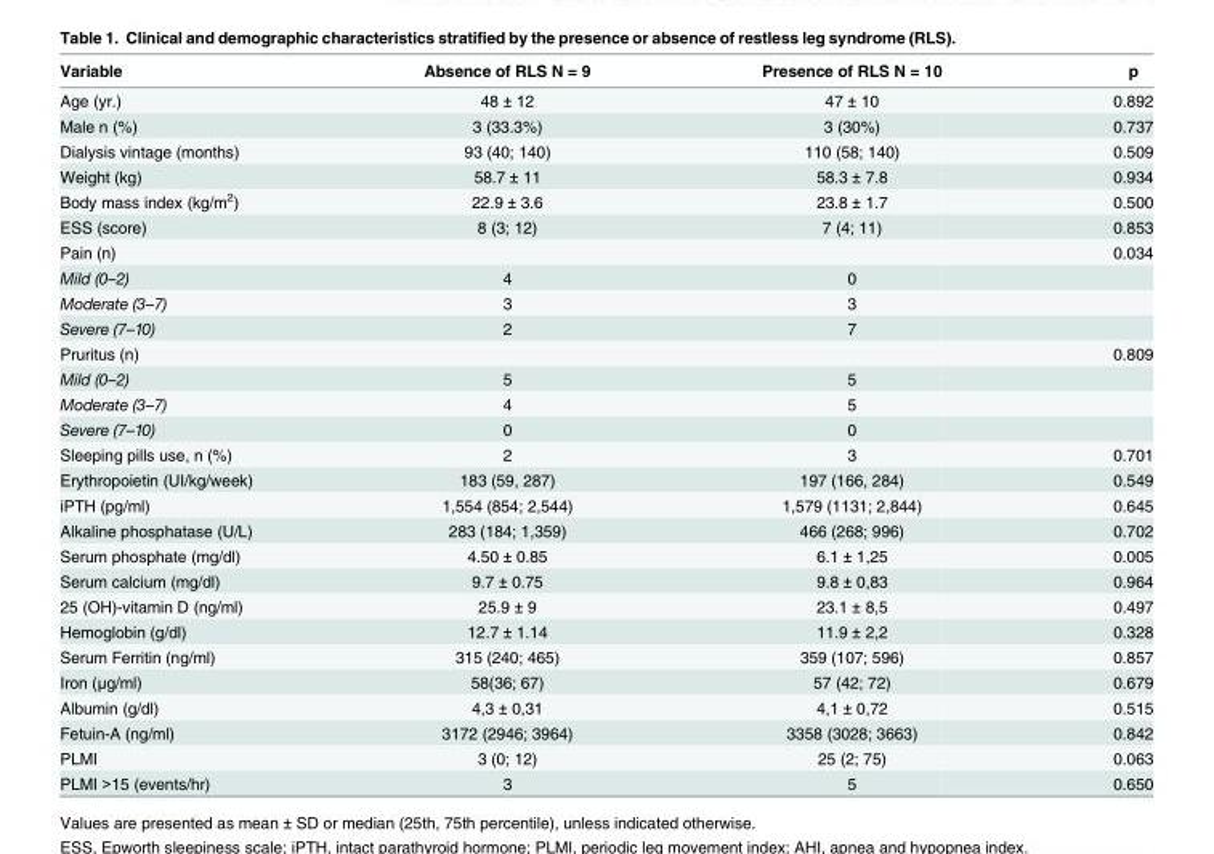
<table><thead><tr><td>Variable</td><td>Absence of RLS N = 9</td><td>Presence of RLS N = 10</td><td>p</td></tr></thead><tbody><tr><td>Age (yr.)</td><td>48 ± 12</td><td>47 ± 10</td><td>0.892</td></tr><tr><td>Male n (%)</td><td>3 (33.3%)</td><td>3 (30%)</td><td>0.737</td></tr><tr><td>Dialysis vintage (months)</td><td>93 (40; 140)</td><td>110 (58; 140)</td><td>0.509</td></tr><tr><td>Weight (kg)</td><td>58.7 ± 11</td><td>58.3 ± 7.8</td><td>0.934</td></tr><tr><td>Body mass index (kg/m<sup>2</sup>)</td><td>22.9 ± 3.6</td><td>23.8 ± 1.7</td><td>0.500</td></tr><tr><td>ESS (score)</td><td>8 (3; 12)</td><td>7 (4; 11)</td><td>0.853</td></tr><tr><td>Pain (n)</td><td></td><td></td><td>0.034</td></tr><tr><td>Mild (0–2)</td><td>4</td><td>0</td><td></td></tr><tr><td>Moderate (3–7)</td><td>3</td><td>3</td><td></td></tr><tr><td>Severe (7–10)</td><td>2</td><td>7</td><td></td></tr><tr><td>Pruritus (n)</td><td></td><td></td><td>0.809</td></tr><tr><td>Mild (0–2)</td><td>5</td><td>5</td><td></td></tr><tr><td>Moderate (3–7)</td><td>4</td><td>5</td><td></td></tr><tr><td>Severe (7–10)</td><td>0</td><td>0</td><td></td></tr><tr><td>Sleeping pills use, n (%)</td><td>2</td><td>3</td><td>0.701</td></tr><tr><td>Erythropoietin (UI/kg/week)</td><td>183 (59, 287)</td><td>197 (166, 284)</td><td>0.549</td></tr><tr><td>iPTH (pg/ml)</td><td>1,554 (854; 2,544)</td><td>1,579 (1131; 2,844)</td><td>0.645</td></tr><tr><td>Alkaline phosphatase (U/L)</td><td>283 (184; 1,359)</td><td>466 (268; 996)</td><td>0.702</td></tr><tr><td>Serum phosphate (mg/dl)</td><td>4.50 ± 0.85</td><td>6.1 ± 1,25</td><td>0.005</td></tr><tr><td>Serum calcium (mg/dl)</td><td>9.7 ± 0.75</td><td>9.8 ± 0,83</td><td>0.964</td></tr><tr><td>25 (OH)-vitamin D (ng/ml)</td><td>25.9 ± 9</td><td>23.1 ± 8,5</td><td>0.497</td></tr><tr><td>Hemoglobin (g/dl)</td><td>12.7 ± 1.14</td><td>11.9 ± 2,2</td><td>0.328</td></tr><tr><td>Serum Ferritin (ng/ml)</td><td>315 (240; 465)</td><td>359 (107; 596)</td><td>0.857</td></tr><tr><td>Iron (μg/ml)</td><td>58(36; 67)</td><td>57 (42; 72)</td><td>0.679</td></tr><tr><td>Albumin (g/dl)</td><td>4,3 ± 0,31</td><td>4,1 ± 0,72</td><td>0.515</td></tr><tr><td>Fetuin-A (ng/ml)</td><td>3172 (2946; 3964)</td><td>3358 (3028; 3663)</td><td>0.842</td></tr><tr><td>PLMI</td><td>3 (0; 12)</td><td>25 (2; 75)</td><td>0.063</td></tr><tr><td>PLMI &gt;15 (events/hr)</td><td>3</td><td>5</td><td>0.650</td></tr></tbody></table>